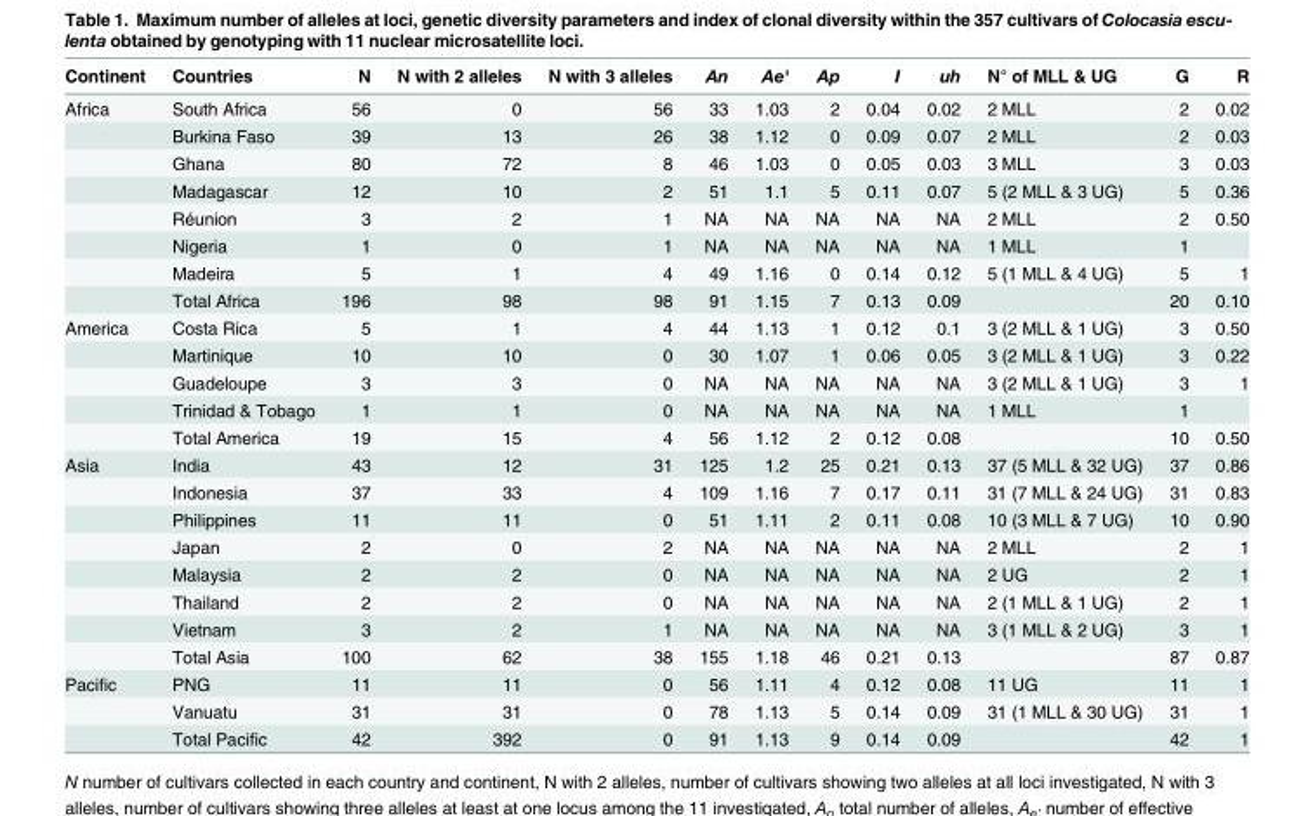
<table><thead><tr><td>Continent</td><td>Countries</td><td>N</td><td>N with 2 alleles</td><td>N with 3 alleles</td><td>An</td><td>Ae&#x27;</td><td>Ap</td><td>I</td><td>uh</td><td>N° of MLL &amp; UG</td><td>G</td><td>R</td></tr></thead><tbody><tr><td rowspan="8">Africa</td><td>South Africa</td><td>56</td><td>0</td><td>56</td><td>33</td><td>1.03</td><td>2</td><td>0.04</td><td>0.02</td><td>2 MLL</td><td>2</td><td>0.02</td></tr><tr><td>Burkina Faso</td><td>39</td><td>13</td><td>26</td><td>38</td><td>1.12</td><td>0</td><td>0.09</td><td>0.07</td><td>2 MLL</td><td>2</td><td>0.03</td></tr><tr><td>Ghana</td><td>80</td><td>72</td><td>8</td><td>46</td><td>1.03</td><td>0</td><td>0.05</td><td>0.03</td><td>3 MLL</td><td>3</td><td>0.03</td></tr><tr><td>Madagascar</td><td>12</td><td>10</td><td>2</td><td>51</td><td>1.1</td><td>5</td><td>0.11</td><td>0.07</td><td>5 (2 MLL &amp; 3 UG)</td><td>5</td><td>0.36</td></tr><tr><td>Réunion</td><td>3</td><td>2</td><td>1</td><td>NA</td><td>NA</td><td>NA</td><td>NA</td><td>NA</td><td>2 MLL</td><td>2</td><td>0.50</td></tr><tr><td>Nigeria</td><td>1</td><td>0</td><td>1</td><td>NA</td><td>NA</td><td>NA</td><td>NA</td><td>NA</td><td>1 MLL</td><td>1</td><td></td></tr><tr><td>Madeira</td><td>5</td><td>1</td><td>4</td><td>49</td><td>1.16</td><td>0</td><td>0.14</td><td>0.12</td><td>5 (1 MLL &amp; 4 UG)</td><td>5</td><td>1</td></tr><tr><td>Total Africa</td><td>196</td><td>98</td><td>98</td><td>91</td><td>1.15</td><td>7</td><td>0.13</td><td>0.09</td><td></td><td>20</td><td>0.10</td></tr><tr><td rowspan="5">America</td><td>Costa Rica</td><td>5</td><td>1</td><td>4</td><td>44</td><td>1.13</td><td>1</td><td>0.12</td><td>0.1</td><td>3 (2 MLL &amp; 1 UG)</td><td>3</td><td>0.50</td></tr><tr><td>Martinique</td><td>10</td><td>10</td><td>0</td><td>30</td><td>1.07</td><td>1</td><td>0.06</td><td>0.05</td><td>3 (2 MLL &amp; 1 UG)</td><td>3</td><td>0.22</td></tr><tr><td>Guadeloupe</td><td>3</td><td>3</td><td>0</td><td>NA</td><td>NA</td><td>NA</td><td>NA</td><td>NA</td><td>3 (2 MLL &amp; 1 UG)</td><td>3</td><td>1</td></tr><tr><td>Trinidad &amp; Tobago</td><td>1</td><td>1</td><td>0</td><td>NA</td><td>NA</td><td>NA</td><td>NA</td><td>NA</td><td>1 MLL</td><td>1</td><td></td></tr><tr><td>Total America</td><td>19</td><td>15</td><td>4</td><td>56</td><td>1.12</td><td>2</td><td>0.12</td><td>0.08</td><td></td><td>10</td><td>0.50</td></tr><tr><td rowspan="8">Asia</td><td>India</td><td>43</td><td>12</td><td>31</td><td>125</td><td>1.2</td><td>25</td><td>0.21</td><td>0.13</td><td>37 (5 MLL &amp; 32 UG)</td><td>37</td><td>0.86</td></tr><tr><td>Indonesia</td><td>37</td><td>33</td><td>4</td><td>109</td><td>1.16</td><td>7</td><td>0.17</td><td>0.11</td><td>31 (7 MLL &amp; 24 UG)</td><td>31</td><td>0.83</td></tr><tr><td>Philippines</td><td>11</td><td>11</td><td>0</td><td>51</td><td>1.11</td><td>2</td><td>0.11</td><td>0.08</td><td>10 (3 MLL &amp; 7 UG)</td><td>10</td><td>0.90</td></tr><tr><td>Japan</td><td>2</td><td>0</td><td>2</td><td>NA</td><td>NA</td><td>NA</td><td>NA</td><td>NA</td><td>2 MLL</td><td>2</td><td>1</td></tr><tr><td>Malaysia</td><td>2</td><td>2</td><td>0</td><td>NA</td><td>NA</td><td>NA</td><td>NA</td><td>NA</td><td>2 UG</td><td>2</td><td>1</td></tr><tr><td>Thailand</td><td>2</td><td>2</td><td>0</td><td>NA</td><td>NA</td><td>NA</td><td>NA</td><td>NA</td><td>2 (1 MLL &amp; 1 UG)</td><td>2</td><td>1</td></tr><tr><td>Vietnam</td><td>3</td><td>2</td><td>1</td><td>NA</td><td>NA</td><td>NA</td><td>NA</td><td>NA</td><td>3 (1 MLL &amp; 2 UG)</td><td>3</td><td>1</td></tr><tr><td>Total Asia</td><td>100</td><td>62</td><td>38</td><td>155</td><td>1.18</td><td>46</td><td>0.21</td><td>0.13</td><td></td><td>87</td><td>0.87</td></tr><tr><td rowspan="3">Pacific</td><td>PNG</td><td>11</td><td>11</td><td>0</td><td>56</td><td>1.11</td><td>4</td><td>0.12</td><td>0.08</td><td>11 UG</td><td>11</td><td>1</td></tr><tr><td>Vanuatu</td><td>31</td><td>31</td><td>0</td><td>78</td><td>1.13</td><td>5</td><td>0.14</td><td>0.09</td><td>31 (1 MLL &amp; 30 UG)</td><td>31</td><td>1</td></tr><tr><td>Total Pacific</td><td>42</td><td>392</td><td>0</td><td>91</td><td>1.13</td><td>9</td><td>0.14</td><td>0.09</td><td></td><td>42</td><td>1</td></tr></tbody></table>